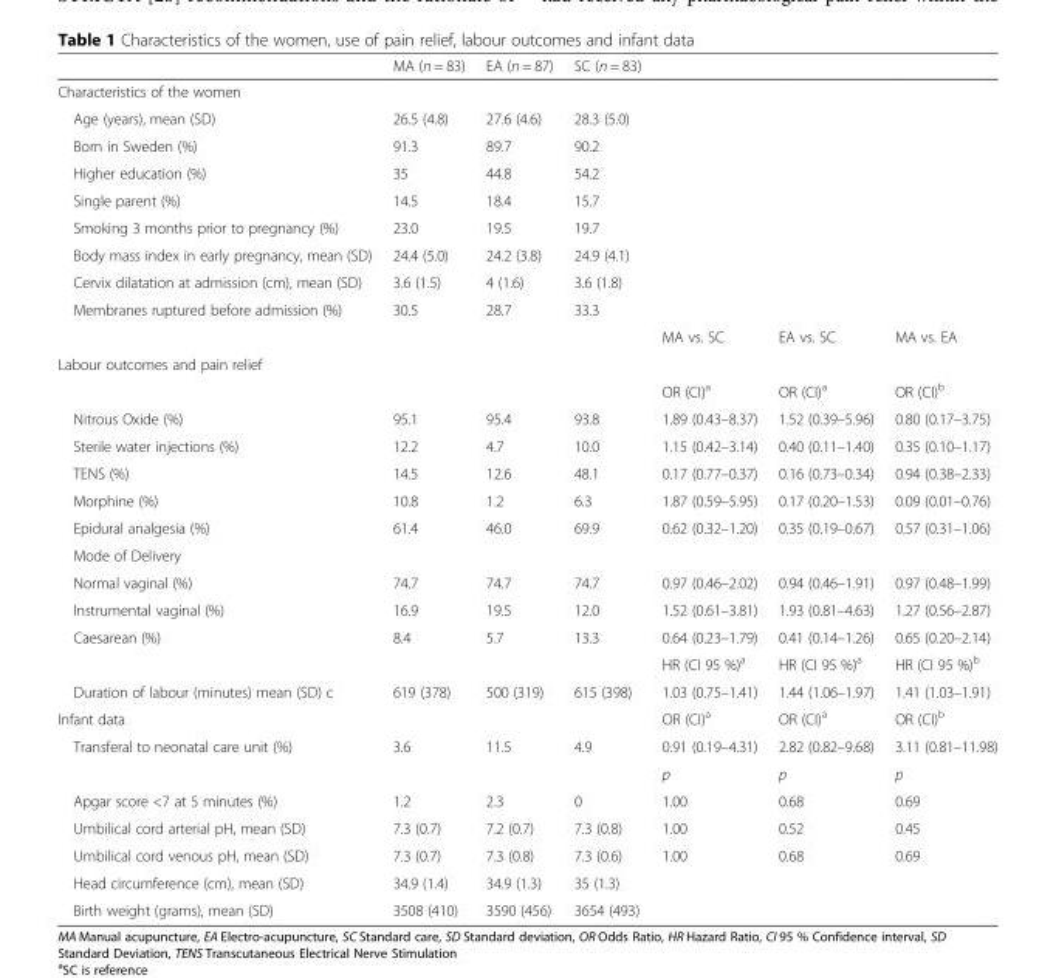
<table><thead><tr><td></td><td>MA (n = 83)</td><td>EA (n = 87)</td><td>SC (n = 83)</td><td></td><td></td><td></td></tr></thead><tbody><tr><td colspan="7">Characteristics of the women</td></tr><tr><td>Age (years), mean (SD)</td><td>26.5 (4.8)</td><td>27.6 (4.6)</td><td>28.3 (5.0)</td><td></td><td></td><td></td></tr><tr><td>Born in Sweden (%)</td><td>91.3</td><td>89.7</td><td>90.2</td><td></td><td></td><td></td></tr><tr><td>Higher education (%)</td><td>35</td><td>44.8</td><td>54.2</td><td></td><td></td><td></td></tr><tr><td>Single parent (%)</td><td>14.5</td><td>18.4</td><td>15.7</td><td></td><td></td><td></td></tr><tr><td>Smoking 3 months prior to pregnancy (%)</td><td>23.0</td><td>19.5</td><td>19.7</td><td></td><td></td><td></td></tr><tr><td>Body mass index in early pregnancy, mean (SD)</td><td>24.4 (5.0)</td><td>24.2 (3.8)</td><td>24.9 (4.1)</td><td></td><td></td><td></td></tr><tr><td>Cervix dilatation at admission (cm), mean (SD)</td><td>3.6 (1.5)</td><td>4 (1.6)</td><td>3.6 (1.8)</td><td></td><td></td><td></td></tr><tr><td rowspan="2">Membranes ruptured before admission (%)</td><td>30.5</td><td>28.7</td><td>33.3</td><td></td><td></td><td></td></tr><tr><td></td><td></td><td></td><td>MA vs. SC</td><td>EA vs. SC</td><td>MA vs. EA</td></tr><tr><td colspan="7">Labour outcomes and pain relief</td></tr><tr><td></td><td></td><td></td><td></td><td>OR (CI)<sup>a</sup></td><td>OR (CI)<sup>a</sup></td><td>OR (CI)<sup>b</sup></td></tr><tr><td>Nitrous Oxide (%)</td><td>95.1</td><td>95.4</td><td>93.8</td><td>1.89 (0.43–8.37)</td><td>1.52 (0.39–5.96)</td><td>0.80 (0.17–3.75)</td></tr><tr><td>Sterile water injections (%)</td><td>12.2</td><td>4.7</td><td>10.0</td><td>1.15 (0.42–3.14)</td><td>0.40 (0.11–1.40)</td><td>0.35 (0.10–1.17)</td></tr><tr><td>TENS (%)</td><td>14.5</td><td>12.6</td><td>48.1</td><td>0.17 (0.77–0.37)</td><td>0.16 (0.73–0.34)</td><td>0.94 (0.38–2.33)</td></tr><tr><td>Morphine (%)</td><td>10.8</td><td>1.2</td><td>6.3</td><td>1.87 (0.59–5.95)</td><td>0.17 (0.20–1.53)</td><td>0.09 (0.01–0.76)</td></tr><tr><td>Epidural analgesia (%)</td><td>61.4</td><td>46.0</td><td>69.9</td><td>0.62 (0.32–1.20)</td><td>0.35 (0.19–0.67)</td><td>0.57 (0.31–1.06)</td></tr><tr><td colspan="7">Mode of Delivery</td></tr><tr><td>Normal vaginal (%)</td><td>74.7</td><td>74.7</td><td>74.7</td><td>0.97 (0.46–2.02)</td><td>0.94 (0.46–1.91)</td><td>0.97 (0.48–1.99)</td></tr><tr><td>Instrumental vaginal (%)</td><td>16.9</td><td>19.5</td><td>12.0</td><td>1.52 (0.61–3.81)</td><td>1.93 (0.81–4.63)</td><td>1.27 (0.56–2.87)</td></tr><tr><td rowspan="2">Caesarean (%)</td><td>8.4</td><td>5.7</td><td>13.3</td><td>0.64 (0.23–1.79)</td><td>0.41 (0.14–1.26)</td><td>0.65 (0.20–2.14)</td></tr><tr><td></td><td></td><td></td><td>HR (CI 95 %)<sup>a</sup></td><td>HR (CI 95 %)<sup>a</sup></td><td>HR (CI 95 %)<sup>b</sup></td></tr><tr><td>Duration of labour (minutes) mean (SD) c</td><td>619 (378)</td><td>500 (319)</td><td>615 (398)</td><td>1.03 (0.75–1.41)</td><td>1.44 (1.06–1.97)</td><td>1.41 (1.03–1.91)</td></tr><tr><td>Infant data</td><td></td><td></td><td></td><td>OR (CI)<sup>a</sup></td><td>OR (CI)<sup>a</sup></td><td>OR (CI)<sup>b</sup></td></tr><tr><td rowspan="2">Transferal to neonatal care unit (%)</td><td>3.6</td><td>11.5</td><td>4.9</td><td>0.91 (0.19–4.31)</td><td>2.82 (0.82–9.68)</td><td>3.11 (0.81–11.98)</td></tr><tr><td></td><td></td><td></td><td>p</td><td>p</td><td>p</td></tr><tr><td>Apgar score &lt;7 at 5 minutes (%)</td><td>1.2</td><td>2.3</td><td>0</td><td>1.00</td><td>0.68</td><td>0.69</td></tr><tr><td>Umbilical cord arterial pH, mean (SD)</td><td>7.3 (0.7)</td><td>7.2 (0.7)</td><td>7.3 (0.8)</td><td>1.00</td><td>0.52</td><td>0.45</td></tr><tr><td>Umbilical cord venous pH, mean (SD)</td><td>7.3 (0.7)</td><td>7.3 (0.8)</td><td>7.3 (0.6)</td><td>1.00</td><td>0.68</td><td>0.69</td></tr><tr><td>Head circumference (cm), mean (SD)</td><td>34.9 (1.4)</td><td>34.9 (1.3)</td><td>35 (1.3)</td><td></td><td></td><td></td></tr><tr><td>Birth weight (grams), mean (SD)</td><td>3508 (410)</td><td>3590 (456)</td><td>3654 (493)</td><td></td><td></td><td></td></tr></tbody></table>